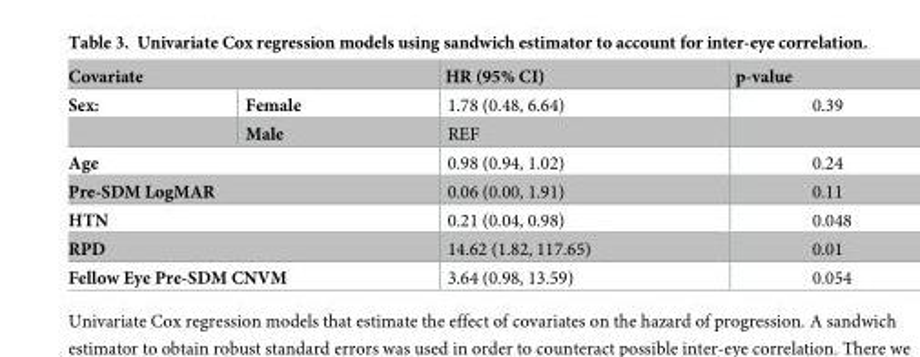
<table><thead><tr><td colspan="2">Covariate</td><td rowspan="2">HR (95% CI) 1.78 (0.48, 6.64)</td><td rowspan="2">p-value 0.39</td></tr><tr><td>Sex:</td><td>Female</td></tr></thead><tbody><tr><td></td><td>Male</td><td>REF</td><td></td></tr><tr><td colspan="2">Age</td><td>0.98 (0.94, 1.02)</td><td>0.24</td></tr><tr><td colspan="2">Pre-SDM LogMAR</td><td>0.06 (0.00, 1.91)</td><td>0.11</td></tr><tr><td colspan="2">HTN</td><td>0.21 (0.04, 0.98)</td><td>0.048</td></tr><tr><td colspan="2">RPD</td><td>14.62 (1.82, 117.65)</td><td>0.01</td></tr><tr><td colspan="2">Fellow Eye Pre-SDM CNVM</td><td>3.64 (0.98, 13.59)</td><td>0.054</td></tr></tbody></table>